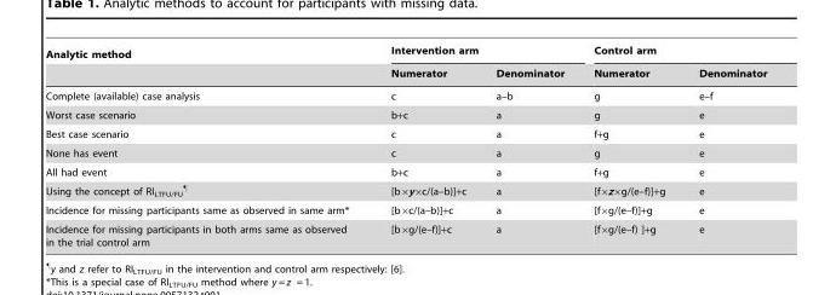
<table><thead><tr><td rowspan="2">Analytic method</td><td colspan="2">Intervention arm</td><td colspan="2">Control arm</td></tr><tr><td>Numerator</td><td>Denominator</td><td>Numerator</td><td>Denominator</td></tr></thead><tbody><tr><td>Complete (available) case analysis</td><td>c</td><td>a–b</td><td>g</td><td>e–f</td></tr><tr><td>Worst case scenario</td><td>b+c</td><td>a</td><td>g</td><td>e</td></tr><tr><td>Best case scenario</td><td>c</td><td>a</td><td>f+g</td><td>e</td></tr><tr><td>None has event</td><td>c</td><td>a</td><td>g</td><td>e</td></tr><tr><td>All had event</td><td>b+c</td><td>a</td><td>f+g</td><td>e</td></tr><tr><td>Using the concept of RI<sub>LTFU/FU</sub> ¶</td><td>[b×y×c/(a–b)]+c</td><td>a</td><td>[f×z×g/(e–f)]+g</td><td>e</td></tr><tr><td>Incidence for missing participants same as observed in same arm*</td><td>[b×c/(a–b)]+c</td><td>a</td><td>[f×g/(e–f)]+g</td><td>e</td></tr><tr><td>Incidence for missing participants in both arms same as observed in the trial control arm</td><td>[b×g/(e–f)]+c</td><td>a</td><td>[f×g/(e–f) ]+g</td><td>e</td></tr></tbody></table>